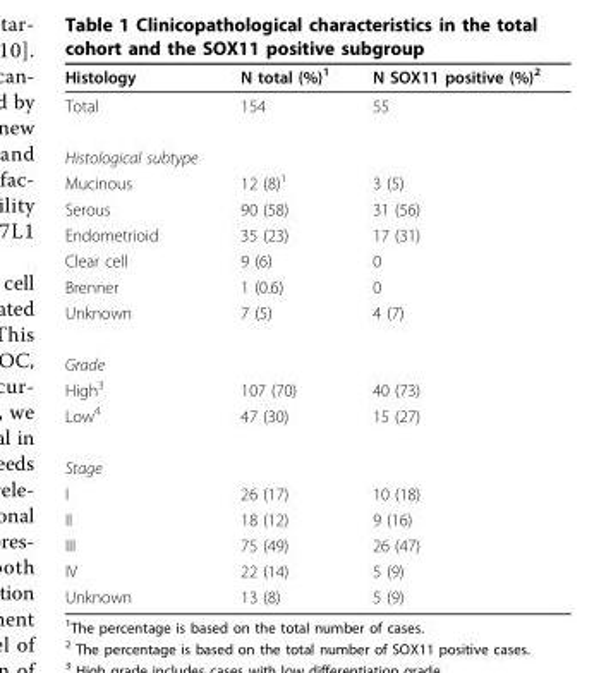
<table><thead><tr><td>Histology</td><td>N total (%)<sup>1</sup></td><td>N SOX11 positive (%)<sup>2</sup></td></tr></thead><tbody><tr><td>Total</td><td>154</td><td>55</td></tr><tr><td colspan="3">Histological subtype</td></tr><tr><td>Mucinous</td><td>12 (8)<sup>1</sup></td><td>3 (5)</td></tr><tr><td>Serous</td><td>90 (58)</td><td>31 (56)</td></tr><tr><td>Endometrioid</td><td>35 (23)</td><td>17 (31)</td></tr><tr><td>Clear cell</td><td>9 (6)</td><td>0</td></tr><tr><td>Brenner</td><td>1 (0.6)</td><td>0</td></tr><tr><td>Unknown</td><td>7 (5)</td><td>4 (7)</td></tr><tr><td colspan="3">Grade</td></tr><tr><td>High<sup>3</sup></td><td>107 (70)</td><td>40 (73)</td></tr><tr><td>Low<sup>4</sup></td><td>47 (30)</td><td>15 (27)</td></tr><tr><td colspan="3">Stage</td></tr><tr><td>I</td><td>26 (17)</td><td>10 (18)</td></tr><tr><td>II</td><td>18 (12)</td><td>9 (16)</td></tr><tr><td>III</td><td>75 (49)</td><td>26 (47)</td></tr><tr><td>IV</td><td>22 (14)</td><td>5 (9)</td></tr><tr><td>Unknown</td><td>13 (8)</td><td>5 (9)</td></tr></tbody></table>